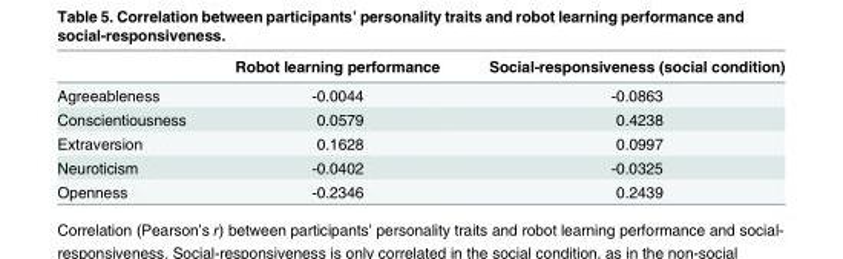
<table><thead><tr><td></td><td>Robot learning performance</td><td>Social-responsiveness (social condition)</td></tr></thead><tbody><tr><td>Agreeableness</td><td>-0.0044</td><td>-0.0863</td></tr><tr><td>Conscientiousness</td><td>0.0579</td><td>0.4238</td></tr><tr><td>Extraversion</td><td>0.1628</td><td>0.0997</td></tr><tr><td>Neuroticism</td><td>-0.0402</td><td>-0.0325</td></tr><tr><td>Openness</td><td>-0.2346</td><td>0.2439</td></tr></tbody></table>